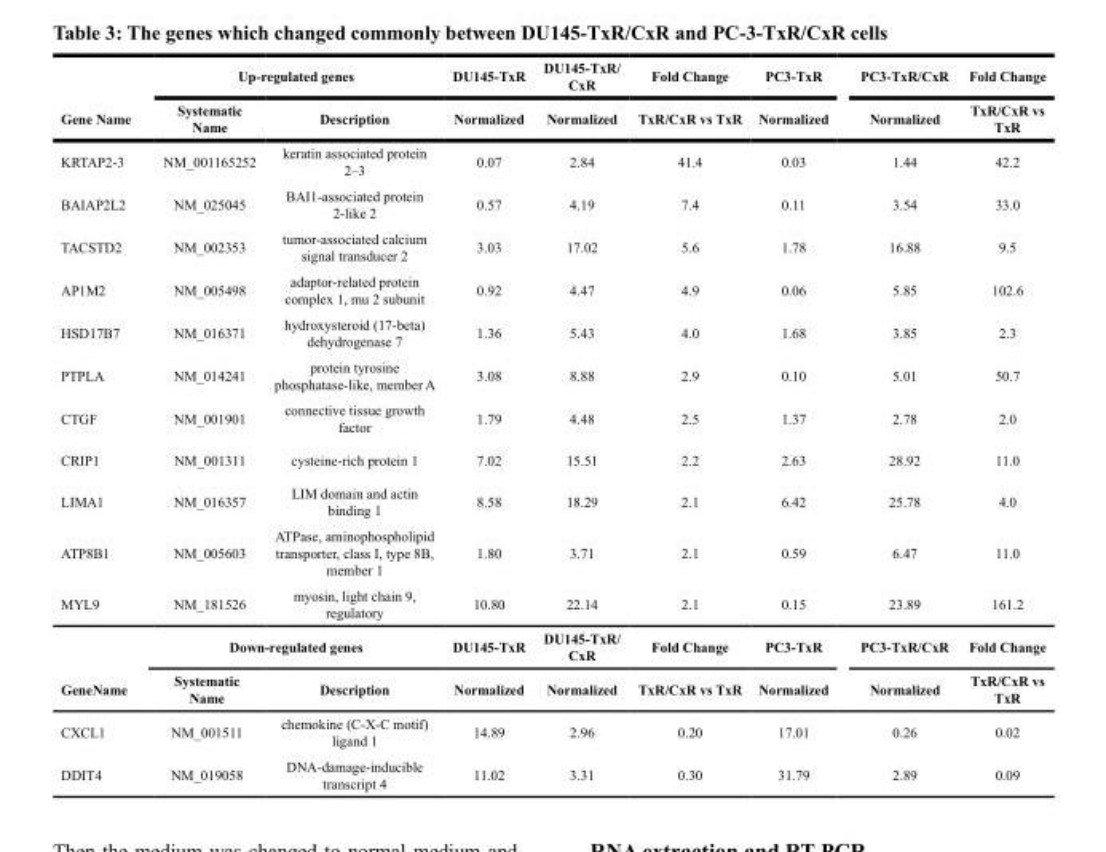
<table><thead><tr><td rowspan="2">Gene Name</td><td colspan="2">Up-regulated genes</td><td rowspan="2">DU145-TxR Normalized</td><td rowspan="2">DU145-TxR/ CxR Normalized</td><td rowspan="2">Fold Change TxR/CxR vs TxR</td><td rowspan="2">PC3-TxR Normalized</td><td rowspan="2">PC3-TxR/CxR Normalized</td><td rowspan="2">Fold Change TxR/CxR vs TxR</td></tr><tr><td>Systematic Name</td><td>Description</td></tr></thead><tbody><tr><td>KRTAP2-3</td><td>NM_001165252</td><td>keratin associated protein 2–3</td><td>0.07</td><td>2.84</td><td>41.4</td><td>0.03</td><td>1.44</td><td>42.2</td></tr><tr><td>BAIAP2L2</td><td>NM_025045</td><td>BAI1-associated protein 2-like 2</td><td>0.57</td><td>4.19</td><td>7.4</td><td>0.11</td><td>3.54</td><td>33.0</td></tr><tr><td>TACSTD2</td><td>NM_002353</td><td>tumor-associated calcium signal transducer 2</td><td>3.03</td><td>17.02</td><td>5.6</td><td>1.78</td><td>16.88</td><td>9.5</td></tr><tr><td>AP1M2</td><td>NM_005498</td><td>adaptor-related protein complex 1, mu 2 subunit</td><td>0.92</td><td>4.47</td><td>4.9</td><td>0.06</td><td>5.85</td><td>102.6</td></tr><tr><td>HSD17B7</td><td>NM_016371</td><td>hydroxysteroid (17-beta) dehydrogenase 7</td><td>1.36</td><td>5.43</td><td>4.0</td><td>1.68</td><td>3.85</td><td>2.3</td></tr><tr><td>PTPLA</td><td>NM_014241</td><td>protein tyrosine phosphatase-like, member A</td><td>3.08</td><td>8.88</td><td>2.9</td><td>0.10</td><td>5.01</td><td>50.7</td></tr><tr><td>CTGF</td><td>NM_001901</td><td>connective tissue growth factor</td><td>1.79</td><td>4.48</td><td>2.5</td><td>1.37</td><td>2.78</td><td>2.0</td></tr><tr><td>CRIP1</td><td>NM_001311</td><td>cysteine-rich protein 1</td><td>7.02</td><td>15.51</td><td>2.2</td><td>2.63</td><td>28.92</td><td>11.0</td></tr><tr><td>LIMA1</td><td>NM_016357</td><td>LIM domain and actin binding 1</td><td>8.58</td><td>18.29</td><td>2.1</td><td>6.42</td><td>25.78</td><td>4.0</td></tr><tr><td>ATP8B1</td><td>NM_005603</td><td>ATPase, aminophospholipid transporter, class I, type 8B, member 1</td><td>1.80</td><td>3.71</td><td>2.1</td><td>0.59</td><td>6.47</td><td>11.0</td></tr><tr><td rowspan="2">MYL9</td><td>NM_181526</td><td>myosin, light chain 9, regulatory</td><td>10.80</td><td>22.14</td><td>2.1</td><td>0.15</td><td>23.89</td><td>161.2</td></tr><tr><td colspan="2">Down-regulated genes</td><td>DU145-TxR</td><td>DU145-TxR/ CxR</td><td>Fold Change</td><td>PC3-TxR</td><td>PC3-TxR/CxR</td><td>Fold Change</td></tr><tr><td>GeneName</td><td>Systematic Name</td><td>Description</td><td>Normalized</td><td>Normalized</td><td>TxR/CxR vs TxR</td><td>Normalized</td><td>Normalized</td><td>TxR/CxR vs TxR</td></tr><tr><td>CXCL1</td><td>NM_001511</td><td>chemokine (C-X-C motif) ligand 1</td><td>14.89</td><td>2.96</td><td>0.20</td><td>17.01</td><td>0.26</td><td>0.02</td></tr><tr><td>DDIT4</td><td>NM_019058</td><td>DNA-damage-inducible transcript 4</td><td>11.02</td><td>3.31</td><td>0.30</td><td>31.79</td><td>2.89</td><td>0.09</td></tr></tbody></table>